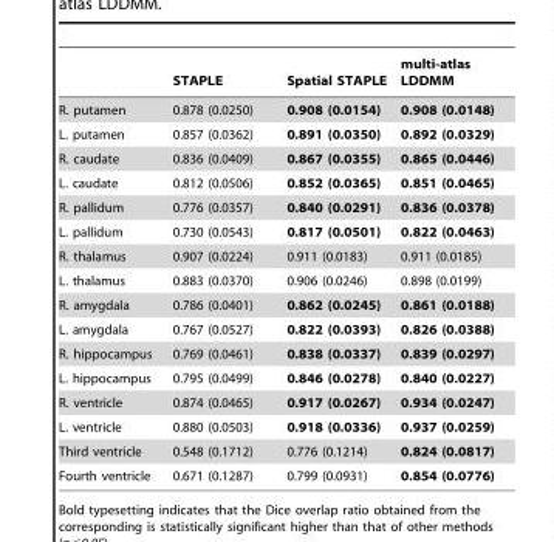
<table><thead><tr><td></td><td>STAPLE</td><td>Spatial STAPLE</td><td>multi-atlas LDDMM</td></tr></thead><tbody><tr><td>R. putamen</td><td>0.878 (0.0250)</td><td>0.908 (0.0154)</td><td>0.908 (0.0148)</td></tr><tr><td>L. putamen</td><td>0.857 (0.0362)</td><td>0.891 (0.0350)</td><td>0.892 (0.0329)</td></tr><tr><td>R. caudate</td><td>0.836 (0.0409)</td><td>0.867 (0.0355)</td><td>0.865 (0.0446)</td></tr><tr><td>L. caudate</td><td>0.812 (0.0506)</td><td>0.852 (0.0365)</td><td>0.851 (0.0465)</td></tr><tr><td>R. pallidum</td><td>0.776 (0.0357)</td><td>0.840 (0.0291)</td><td>0.836 (0.0378)</td></tr><tr><td>L. pallidum</td><td>0.730 (0.0543)</td><td>0.817 (0.0501)</td><td>0.822 (0.0463)</td></tr><tr><td>R. thalamus</td><td>0.907 (0.0224)</td><td>0.911 (0.0183)</td><td>0.911 (0.0185)</td></tr><tr><td>L. thalamus</td><td>0.883 (0.0370)</td><td>0.906 (0.0246)</td><td>0.898 (0.0199)</td></tr><tr><td>R. amygdala</td><td>0.786 (0.0401)</td><td>0.862 (0.0245)</td><td>0.861 (0.0188)</td></tr><tr><td>L. amygdala</td><td>0.767 (0.0527)</td><td>0.822 (0.0393)</td><td>0.826 (0.0388)</td></tr><tr><td>R. hippocampus</td><td>0.769 (0.0461)</td><td>0.838 (0.0337)</td><td>0.839 (0.0297)</td></tr><tr><td>L. hippocampus</td><td>0.795 (0.0499)</td><td>0.846 (0.0278)</td><td>0.840 (0.0227)</td></tr><tr><td>R. ventricle</td><td>0.874 (0.0465)</td><td>0.917 (0.0267)</td><td>0.934 (0.0247)</td></tr><tr><td>L. ventricle</td><td>0.880 (0.0503)</td><td>0.918 (0.0336)</td><td>0.937 (0.0259)</td></tr><tr><td>Third ventricle</td><td>0.548 (0.1712)</td><td>0.776 (0.1214)</td><td>0.824 (0.0817)</td></tr><tr><td>Fourth ventricle</td><td>0.671 (0.1287)</td><td>0.799 (0.0931)</td><td>0.854 (0.0776)</td></tr></tbody></table>